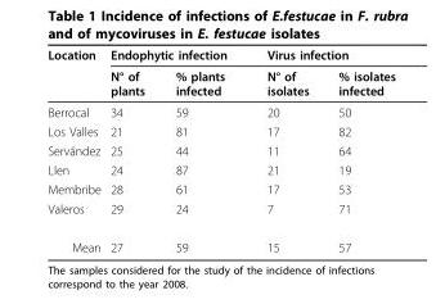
<table><thead><tr><td rowspan="2">Location</td><td colspan="2">Endophytic infection</td><td colspan="2">Virus infection</td></tr><tr><td>N° of plants</td><td>% plants infected</td><td>N° of isolates</td><td>% isolates infected</td></tr></thead><tbody><tr><td>Berrocal</td><td>34</td><td>59</td><td>20</td><td>50</td></tr><tr><td>Los Valles</td><td>21</td><td>81</td><td>17</td><td>82</td></tr><tr><td>Servández</td><td>25</td><td>44</td><td>11</td><td>64</td></tr><tr><td>Llen</td><td>24</td><td>87</td><td>21</td><td>19</td></tr><tr><td>Membribe</td><td>28</td><td>61</td><td>17</td><td>53</td></tr><tr><td>Valeros</td><td>29</td><td>24</td><td>7</td><td>71</td></tr><tr><td>Mean</td><td>27</td><td>59</td><td>15</td><td>57</td></tr></tbody></table>